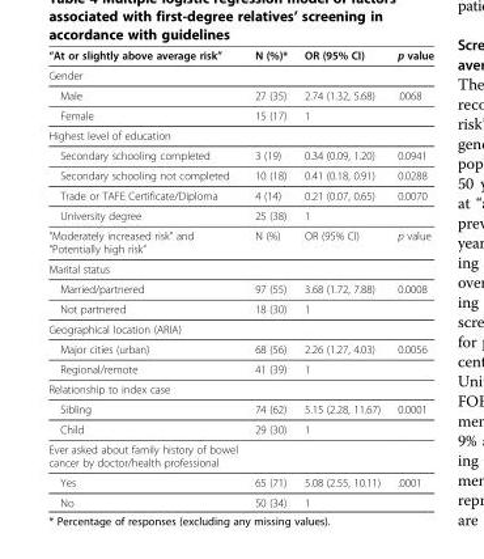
<table><thead><tr><td>“At or slightly above average risk”</td><td>N (%)*</td><td>OR (95% CI)</td><td>p value</td></tr></thead><tbody><tr><td colspan="4">Gender</td></tr><tr><td>Male</td><td>27 (35)</td><td>2.74 (1.32, 5.68)</td><td>.0068</td></tr><tr><td>Female</td><td>15 (17)</td><td>1</td><td></td></tr><tr><td colspan="4">Highest level of education</td></tr><tr><td>Secondary schooling completed</td><td>3 (19)</td><td>0.34 (0.09, 1.20)</td><td>0.0941</td></tr><tr><td>Secondary schooling not completed</td><td>10 (18)</td><td>0.41 (0.18, 0.91)</td><td>0.0288</td></tr><tr><td>Trade or TAFE Certificate/Diploma</td><td>4 (14)</td><td>0.21 (0.07, 0.65)</td><td>0.0070</td></tr><tr><td>University degree</td><td>25 (38)</td><td>1</td><td></td></tr><tr><td>“Moderately increased risk” and “Potentially high risk”</td><td>N (%)</td><td>OR (95% CI)</td><td>p value</td></tr><tr><td colspan="4">Marital status</td></tr><tr><td>Married/partnered</td><td>97 (55)</td><td>3.68 (1.72, 7.88)</td><td>0.0008</td></tr><tr><td>Not partnered</td><td>18 (30)</td><td>1</td><td></td></tr><tr><td colspan="4">Geographical location (ARIA)</td></tr><tr><td>Major cities (urban)</td><td>68 (56)</td><td>2.26 (1.27, 4.03)</td><td>0.0056</td></tr><tr><td>Regional/remote</td><td>41 (39)</td><td>1</td><td></td></tr><tr><td colspan="4">Relationship to index case</td></tr><tr><td>Sibling</td><td>74 (62)</td><td>5.15 (2.28, 11.67)</td><td>0.0001</td></tr><tr><td>Child</td><td>29 (30)</td><td>1</td><td></td></tr><tr><td colspan="4">Ever asked about family history of bowel cancer by doctor/health professional</td></tr><tr><td>Yes</td><td>65 (71)</td><td>5.08 (2.55, 10.11)</td><td>.0001</td></tr><tr><td>No</td><td>50 (34)</td><td>1</td><td></td></tr></tbody></table>